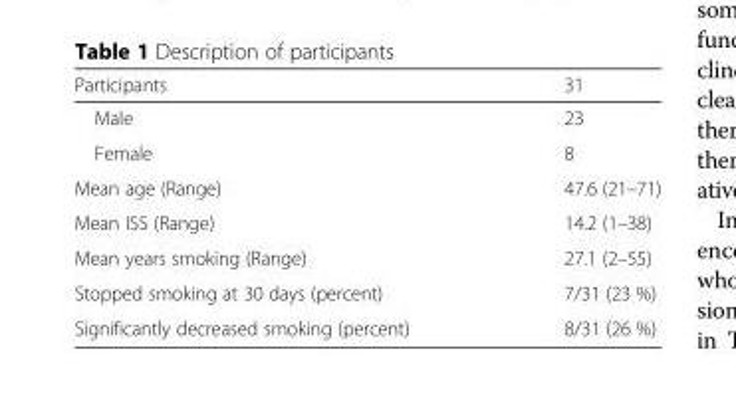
<table><thead><tr><td>Participants</td><td>31</td></tr></thead><tbody><tr><td>Male</td><td>23</td></tr><tr><td>Female</td><td>8</td></tr><tr><td>Mean age (Range)</td><td>47.6 (21–71)</td></tr><tr><td>Mean ISS (Range)</td><td>14.2 (1–38)</td></tr><tr><td>Mean years smoking (Range)</td><td>27.1 (2–55)</td></tr><tr><td>Stopped smoking at 30 days (percent)</td><td>7/31 (23 %)</td></tr><tr><td>Significantly decreased smoking (percent)</td><td>8/31 (26 %)</td></tr></tbody></table>